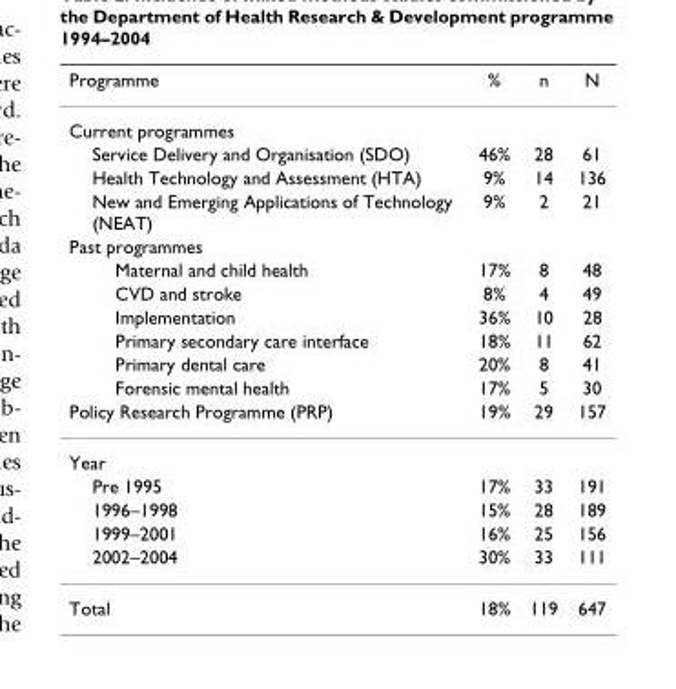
<table><thead><tr><td>Programme</td><td>%</td><td>n</td><td>N</td></tr></thead><tbody><tr><td colspan="4">Current programmes</td></tr><tr><td>Service Delivery and Organisation (SDO)</td><td>46%</td><td>28</td><td>61</td></tr><tr><td>Health Technology and Assessment (HTA)</td><td>9%</td><td>14</td><td>136</td></tr><tr><td>New and Emerging Applications of Technology (NEAT)</td><td>9%</td><td>2</td><td>21</td></tr><tr><td colspan="4">Past programmes</td></tr><tr><td>Maternal and child health</td><td>17%</td><td>8</td><td>48</td></tr><tr><td>CVD and stroke</td><td>8%</td><td>4</td><td>49</td></tr><tr><td>Implementation</td><td>36%</td><td>10</td><td>28</td></tr><tr><td>Primary secondary care interface</td><td>18%</td><td>11</td><td>62</td></tr><tr><td>Primary dental care</td><td>20%</td><td>8</td><td>41</td></tr><tr><td>Forensic mental health</td><td>17%</td><td>5</td><td>30</td></tr><tr><td>Policy Research Programme (PRP)</td><td>19%</td><td>29</td><td>157</td></tr><tr><td colspan="4">Year</td></tr><tr><td>Pre 1995</td><td>17%</td><td>33</td><td>191</td></tr><tr><td>1996–1998</td><td>15%</td><td>28</td><td>189</td></tr><tr><td>1999–2001</td><td>16%</td><td>25</td><td>156</td></tr><tr><td>2002–2004</td><td>30%</td><td>33</td><td>111</td></tr><tr><td>Total</td><td>18%</td><td>119</td><td>647</td></tr></tbody></table>